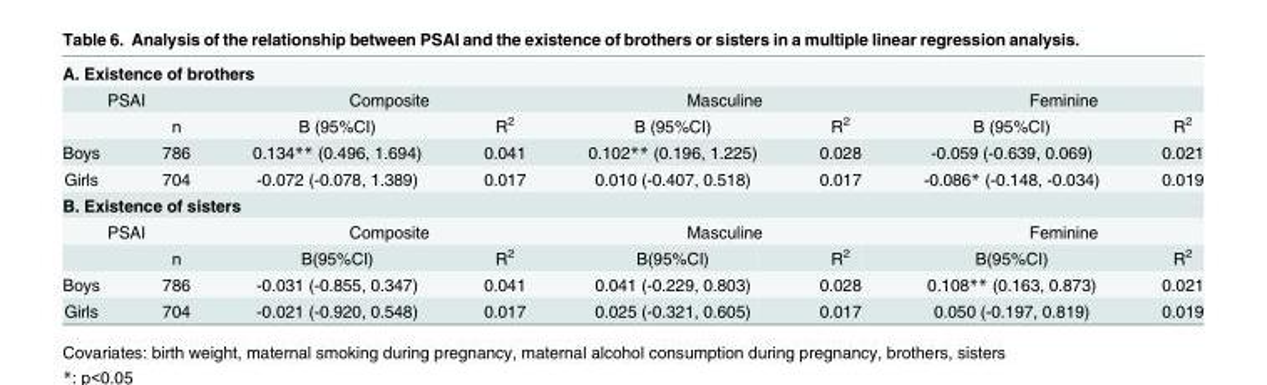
<table><tbody><tr><td colspan="8">A. Existence of brothers</td></tr><tr><td colspan="2">PSAI</td><td colspan="2">Composite</td><td colspan="2">Masculine</td><td colspan="2">Feminine</td></tr><tr><td></td><td>n</td><td>B (95%CI)</td><td>R<sup>2</sup></td><td>B (95%CI)</td><td>R<sup>2</sup></td><td>B (95%CI)</td><td>R<sup>2</sup></td></tr><tr><td>Boys</td><td>786</td><td>0.134** (0.496, 1.694)</td><td>0.041</td><td>0.102** (0.196, 1.225)</td><td>0.028</td><td>-0.059 (-0.639, 0.069)</td><td>0.021</td></tr><tr><td>Girls</td><td>704</td><td>-0.072 (-0.078, 1.389)</td><td>0.017</td><td>0.010 (-0.407, 0.518)</td><td>0.017</td><td>-0.086* (-0.148, -0.034)</td><td>0.019</td></tr><tr><td colspan="8">B. Existence of sisters</td></tr><tr><td colspan="2">PSAI</td><td colspan="2">Composite</td><td colspan="2">Masculine</td><td colspan="2">Feminine</td></tr><tr><td></td><td>n</td><td>B(95%CI)</td><td>R<sup>2</sup></td><td>B(95%CI)</td><td>R<sup>2</sup></td><td>B(95%CI)</td><td>R<sup>2</sup></td></tr><tr><td>Boys</td><td>786</td><td>-0.031 (-0.855, 0.347)</td><td>0.041</td><td>0.041 (-0.229, 0.803)</td><td>0.028</td><td>0.108** (0.163, 0.873)</td><td>0.021</td></tr><tr><td>Girls</td><td>704</td><td>-0.021 (-0.920, 0.548)</td><td>0.017</td><td>0.025 (-0.321, 0.605)</td><td>0.017</td><td>0.050 (-0.197, 0.819)</td><td>0.019</td></tr></tbody></table>